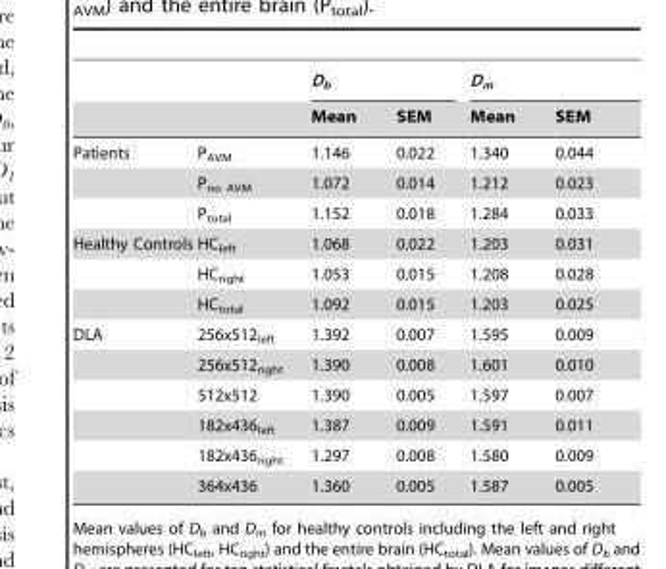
<table><thead><tr><td rowspan="2"></td><td rowspan="2"></td><td colspan="2">D<sub>b</sub></td><td colspan="2">D<sub>m</sub></td></tr><tr><td>Mean</td><td>SEM</td><td>Mean</td><td>SEM</td></tr></thead><tbody><tr><td rowspan="3">Patients</td><td>P<sub>AVM</sub></td><td>1.146</td><td>0.022</td><td>1.340</td><td>0.044</td></tr><tr><td>P<sub>no AVM</sub></td><td>1.072</td><td>0.014</td><td>1.212</td><td>0.023</td></tr><tr><td>P<sub>total</sub></td><td>1.152</td><td>0.018</td><td>1.284</td><td>0.033</td></tr><tr><td rowspan="3">Healthy Controls</td><td>HC<sub>left</sub></td><td>1.068</td><td>0.022</td><td>1.203</td><td>0.031</td></tr><tr><td>HC<sub>right</sub></td><td>1.053</td><td>0.015</td><td>1.208</td><td>0.028</td></tr><tr><td>HC<sub>total</sub></td><td>1.092</td><td>0.015</td><td>1.203</td><td>0.025</td></tr><tr><td rowspan="6">DLA</td><td>256x512<sub>left</sub></td><td>1.392</td><td>0.007</td><td>1.595</td><td>0.009</td></tr><tr><td>256x512<sub>right</sub></td><td>1.390</td><td>0.008</td><td>1.601</td><td>0.010</td></tr><tr><td>512x512</td><td>1.390</td><td>0.005</td><td>1.597</td><td>0.007</td></tr><tr><td>182x436<sub>left</sub></td><td>1.387</td><td>0.009</td><td>1.591</td><td>0.011</td></tr><tr><td>182x436<sub>right</sub></td><td>1.297</td><td>0.008</td><td>1.580</td><td>0.009</td></tr><tr><td>364x436</td><td>1.360</td><td>0.005</td><td>1.587</td><td>0.005</td></tr></tbody></table>